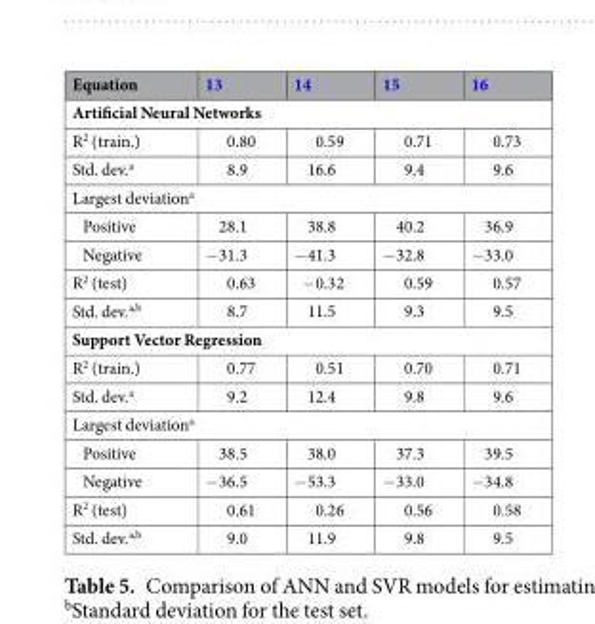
<table><thead><tr><td>Equation</td><td>13</td><td>14</td><td>15</td><td>16</td></tr></thead><tbody><tr><td colspan="5">Artificial Neural Networks</td></tr><tr><td>R<sup>2</sup> (train.)</td><td>0.80</td><td>0.59</td><td>0.71</td><td>0.73</td></tr><tr><td>Std. dev.<sup>a</sup></td><td>8.9</td><td>16.6</td><td>9.4</td><td>9.6</td></tr><tr><td colspan="5">Largest deviation<sup>a</sup></td></tr><tr><td>Positive</td><td>28.1</td><td>38.8</td><td>40.2</td><td>36.9</td></tr><tr><td>Negative</td><td>−31.3</td><td>−41.3</td><td>−32.8</td><td>−33.0</td></tr><tr><td>R<sup>2</sup> (test)</td><td>0.63</td><td>−0.32</td><td>0.59</td><td>0.57</td></tr><tr><td>Std. dev.<sup>a,b</sup></td><td>8.7</td><td>11.5</td><td>9.3</td><td>9.5</td></tr><tr><td colspan="5">Support Vector Regression</td></tr><tr><td>R<sup>2</sup> (train.)</td><td>0.77</td><td>0.51</td><td>0.70</td><td>0.71</td></tr><tr><td>Std. dev.<sup>a</sup></td><td>9.2</td><td>12.4</td><td>9.8</td><td>9.6</td></tr><tr><td colspan="5">Largest deviation<sup>a</sup></td></tr><tr><td>Positive</td><td>38.5</td><td>38.0</td><td>37.3</td><td>39.5</td></tr><tr><td>Negative</td><td>−36.5</td><td>−53.3</td><td>−33.0</td><td>−34.8</td></tr><tr><td>R<sup>2</sup> (test)</td><td>0.61</td><td>0.26</td><td>0.56</td><td>0.58</td></tr><tr><td>Std. dev.<sup>a,b</sup></td><td>9.0</td><td>11.9</td><td>9.8</td><td>9.5</td></tr></tbody></table>